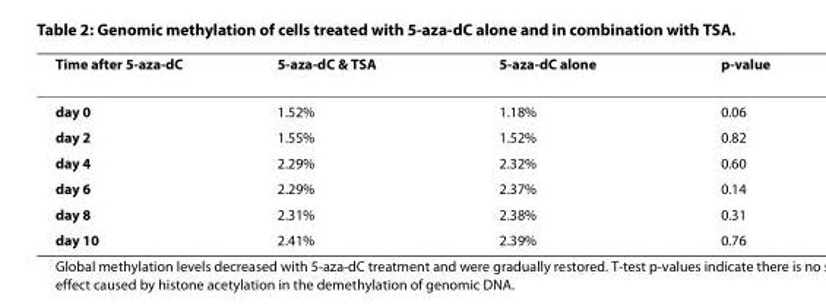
<table><thead><tr><td>Time after 5-aza-dC</td><td>5-aza-dC &amp; TSA</td><td>5-aza-dC alone</td><td>p-value</td></tr></thead><tbody><tr><td>day 0</td><td>1.52%</td><td>1.18%</td><td>0.06</td></tr><tr><td>day 2</td><td>1.55%</td><td>1.52%</td><td>0.82</td></tr><tr><td>day 4</td><td>2.29%</td><td>2.32%</td><td>0.60</td></tr><tr><td>day 6</td><td>2.29%</td><td>2.37%</td><td>0.14</td></tr><tr><td>day 8</td><td>2.31%</td><td>2.38%</td><td>0.31</td></tr><tr><td>day 10</td><td>2.41%</td><td>2.39%</td><td>0.76</td></tr></tbody></table>